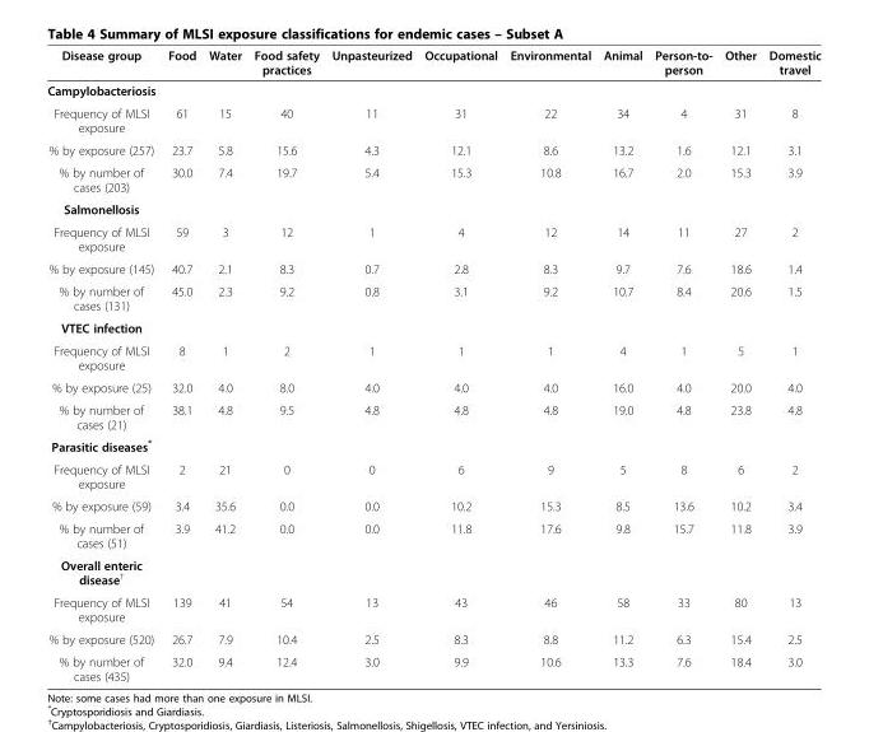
<table><thead><tr><td>Disease group</td><td>Food</td><td>Water</td><td>Food safety practices</td><td>Unpasteurized</td><td>Occupational</td><td>Environmental</td><td>Animal</td><td>Person-to- person</td><td>Other</td><td>Domestic travel</td></tr></thead><tbody><tr><td colspan="11">Campylobacteriosis</td></tr><tr><td>Frequency of MLSI exposure</td><td>61</td><td>15</td><td>40</td><td>11</td><td>31</td><td>22</td><td>34</td><td>4</td><td>31</td><td>8</td></tr><tr><td>% by exposure (257)</td><td>23.7</td><td>5.8</td><td>15.6</td><td>4.3</td><td>12.1</td><td>8.6</td><td>13.2</td><td>1.6</td><td>12.1</td><td>3.1</td></tr><tr><td>% by number of cases (203)</td><td>30.0</td><td>7.4</td><td>19.7</td><td>5.4</td><td>15.3</td><td>10.8</td><td>16.7</td><td>2.0</td><td>15.3</td><td>3.9</td></tr><tr><td colspan="11">Salmonellosis</td></tr><tr><td>Frequency of MLSI exposure</td><td>59</td><td>3</td><td>12</td><td>1</td><td>4</td><td>12</td><td>14</td><td>11</td><td>27</td><td>2</td></tr><tr><td>% by exposure (145)</td><td>40.7</td><td>2.1</td><td>8.3</td><td>0.7</td><td>2.8</td><td>8.3</td><td>9.7</td><td>7.6</td><td>18.6</td><td>1.4</td></tr><tr><td>% by number of cases (131)</td><td>45.0</td><td>2.3</td><td>9.2</td><td>0.8</td><td>3.1</td><td>9.2</td><td>10.7</td><td>8.4</td><td>20.6</td><td>1.5</td></tr><tr><td colspan="11">VTEC infection</td></tr><tr><td>Frequency of MLSI exposure</td><td>8</td><td>1</td><td>2</td><td>1</td><td>1</td><td>1</td><td>4</td><td>1</td><td>5</td><td>1</td></tr><tr><td>% by exposure (25)</td><td>32.0</td><td>4.0</td><td>8.0</td><td>4.0</td><td>4.0</td><td>4.0</td><td>16.0</td><td>4.0</td><td>20.0</td><td>4.0</td></tr><tr><td>% by number of cases (21)</td><td>38.1</td><td>4.8</td><td>9.5</td><td>4.8</td><td>4.8</td><td>4.8</td><td>19.0</td><td>4.8</td><td>23.8</td><td>4.8</td></tr><tr><td colspan="11">Parasitic diseases*</td></tr><tr><td>Frequency of MLSI exposure</td><td>2</td><td>21</td><td>0</td><td>0</td><td>6</td><td>9</td><td>5</td><td>8</td><td>6</td><td>2</td></tr><tr><td>% by exposure (59)</td><td>3.4</td><td>35.6</td><td>0.0</td><td>0.0</td><td>10.2</td><td>15.3</td><td>8.5</td><td>13.6</td><td>10.2</td><td>3.4</td></tr><tr><td>% by number of cases (51)</td><td>3.9</td><td>41.2</td><td>0.0</td><td>0.0</td><td>11.8</td><td>17.6</td><td>9.8</td><td>15.7</td><td>11.8</td><td>3.9</td></tr><tr><td colspan="11">Overall enteric disease<sup>†</sup></td></tr><tr><td>Frequency of MLSI exposure</td><td>139</td><td>41</td><td>54</td><td>13</td><td>43</td><td>46</td><td>58</td><td>33</td><td>80</td><td>13</td></tr><tr><td>% by exposure (520)</td><td>26.7</td><td>7.9</td><td>10.4</td><td>2.5</td><td>8.3</td><td>8.8</td><td>11.2</td><td>6.3</td><td>15.4</td><td>2.5</td></tr><tr><td>% by number of cases (435)</td><td>32.0</td><td>9.4</td><td>12.4</td><td>3.0</td><td>9.9</td><td>10.6</td><td>13.3</td><td>7.6</td><td>18.4</td><td>3.0</td></tr></tbody></table>